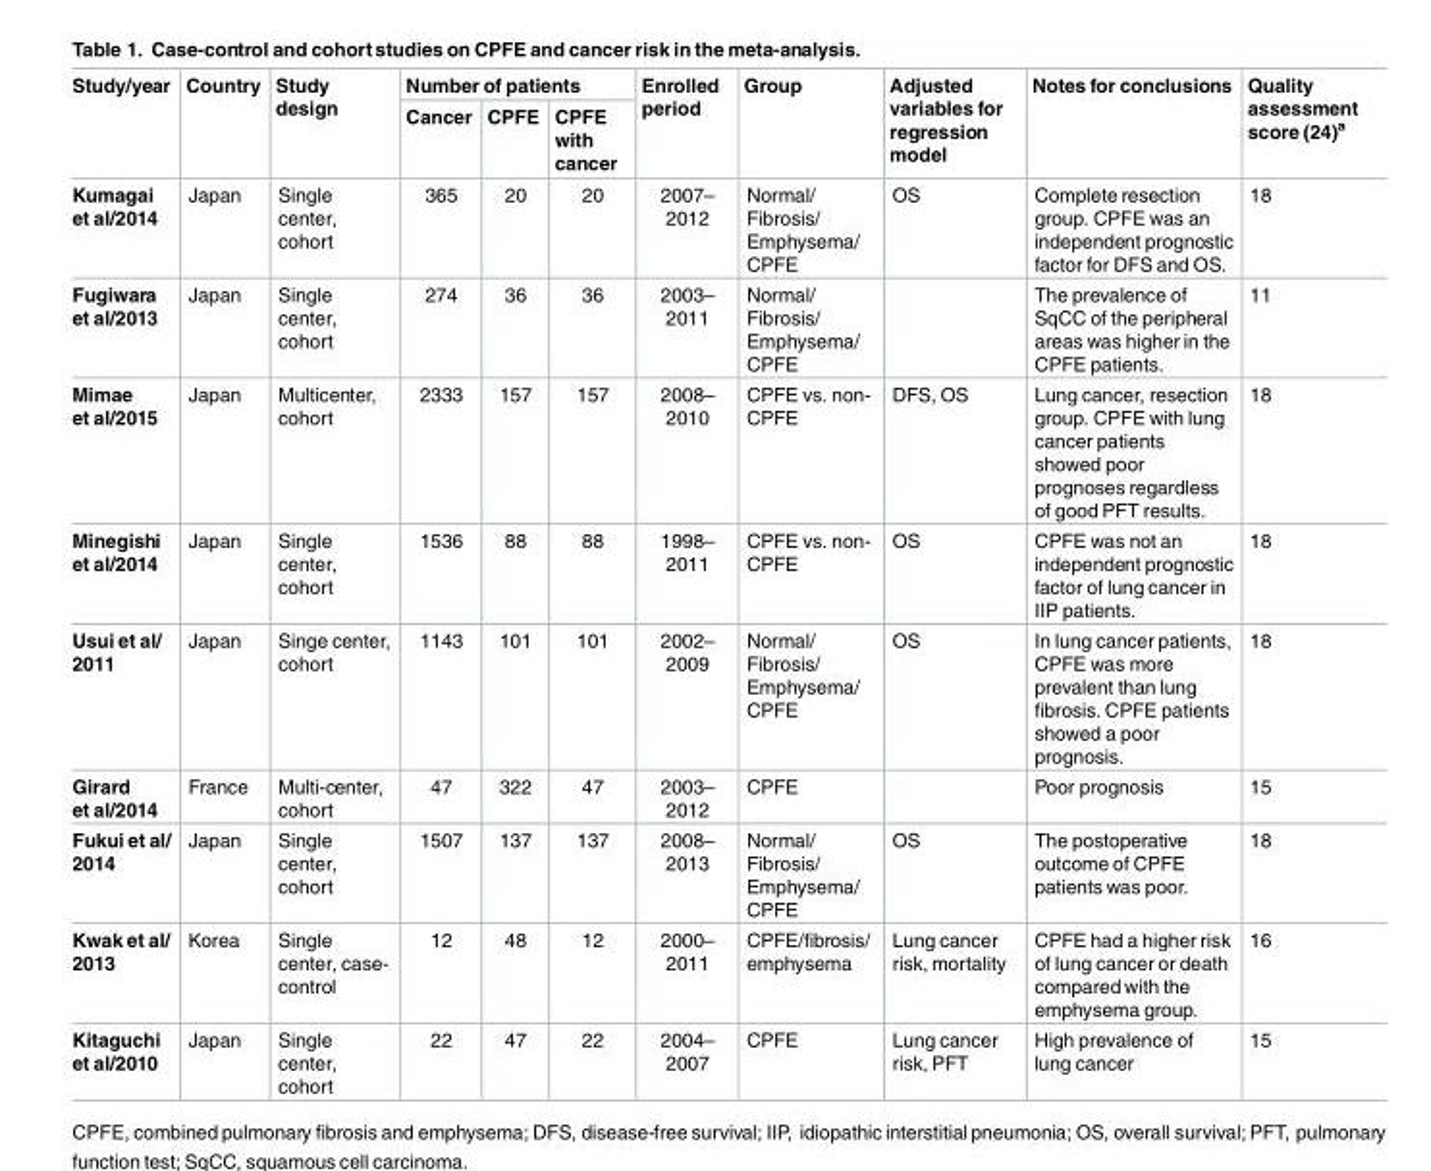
<table><thead><tr><td rowspan="2">Study/year</td><td rowspan="2">Country</td><td rowspan="2">Study design</td><td colspan="3">Number of patients</td><td rowspan="2">Enrolled period</td><td rowspan="2">Group</td><td rowspan="2">Adjusted variables for regression model</td><td rowspan="2">Notes for conclusions</td><td rowspan="2">Quality assessment score (24)<sup>a</sup></td></tr><tr><td>Cancer</td><td>CPFE</td><td>CPFE with cancer</td></tr></thead><tbody><tr><td>Kumagai et al/2014</td><td>Japan</td><td>Single center, cohort</td><td>365</td><td>20</td><td>20</td><td>2007– 2012</td><td>Normal/ Fibrosis/ Emphysema/ CPFE</td><td>OS</td><td>Complete resection group. CPFE was an independent prognostic factor for DFS and OS.</td><td>18</td></tr><tr><td>Fugiwara et al/2013</td><td>Japan</td><td>Single center, cohort</td><td>274</td><td>36</td><td>36</td><td>2003– 2011</td><td>Normal/ Fibrosis/ Emphysema/ CPFE</td><td></td><td>The prevalence of SqCC of the peripheral areas was higher in the CPFE patients.</td><td>11</td></tr><tr><td>Mimae et al/2015</td><td>Japan</td><td>Multicenter, cohort</td><td>2333</td><td>157</td><td>157</td><td>2008– 2010</td><td>CPFE vs. non- CPFE</td><td>DFS, OS</td><td>Lung cancer, resection group. CPFE with lung cancer patients showed poor prognoses regardless of good PFT results.</td><td>18</td></tr><tr><td>Minegishi et al/2014</td><td>Japan</td><td>Single center, cohort</td><td>1536</td><td>88</td><td>88</td><td>1998– 2011</td><td>CPFE vs. non- CPFE</td><td>OS</td><td>CPFE was not an independent prognostic factor of lung cancer in IIP patients.</td><td>18</td></tr><tr><td>Usui et al/ 2011</td><td>Japan</td><td>Singe center, cohort</td><td>1143</td><td>101</td><td>101</td><td>2002– 2009</td><td>Normal/ Fibrosis/ Emphysema/ CPFE</td><td>OS</td><td>In lung cancer patients, CPFE was more prevalent than lung fibrosis. CPFE patients showed a poor prognosis.</td><td>18</td></tr><tr><td>Girard et al/2014</td><td>France</td><td>Multi-center, cohort</td><td>47</td><td>322</td><td>47</td><td>2003– 2012</td><td>CPFE</td><td></td><td>Poor prognosis</td><td>15</td></tr><tr><td>Fukui et al/ 2014</td><td>Japan</td><td>Single center, cohort</td><td>1507</td><td>137</td><td>137</td><td>2008– 2013</td><td>Normal/ Fibrosis/ Emphysema/ CPFE</td><td>OS</td><td>The postoperative outcome of CPFE patients was poor.</td><td>18</td></tr><tr><td>Kwak et al/ 2013</td><td>Korea</td><td>Single center, case- control</td><td>12</td><td>48</td><td>12</td><td>2000– 2011</td><td>CPFE/fibrosis/ emphysema</td><td>Lung cancer risk, mortality</td><td>CPFE had a higher risk of lung cancer or death compared with the emphysema group.</td><td>16</td></tr><tr><td>Kitaguchi et al/2010</td><td>Japan</td><td>Single center, cohort</td><td>22</td><td>47</td><td>22</td><td>2004– 2007</td><td>CPFE</td><td>Lung cancer risk, PFT</td><td>High prevalence of lung cancer</td><td>15</td></tr></tbody></table>